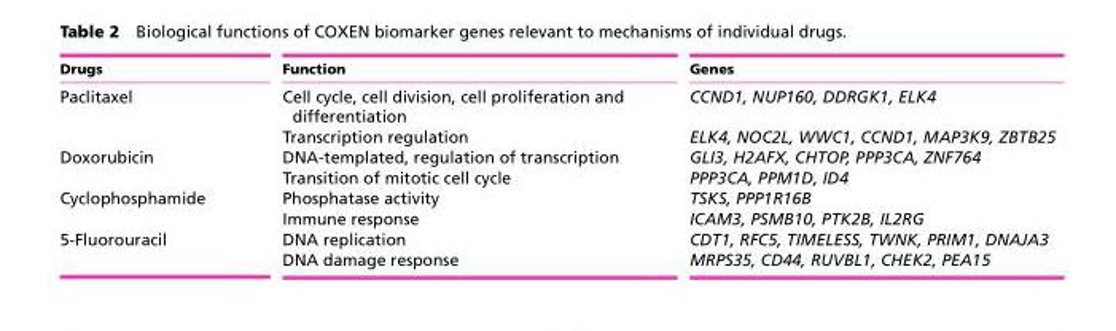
<table><thead><tr><td>Drugs</td><td>Function</td><td>Genes</td></tr></thead><tbody><tr><td rowspan="2">Paclitaxel</td><td>Cell cycle, cell division, cell proliferation and differentiation</td><td>CCND1, NUP160, DDRGK1, ELK4</td></tr><tr><td>Transcription regulation</td><td>ELK4, NOC2L, WWC1, CCND1, MAP3K9, ZBTB25</td></tr><tr><td rowspan="2">Doxorubicin</td><td>DNA-templated, regulation of transcription</td><td>GLI3, H2AFX, CHTOP, PPP3CA, ZNF764</td></tr><tr><td>Transition of mitotic cell cycle</td><td>PPP3CA, PPM1D, ID4</td></tr><tr><td rowspan="2">Cyclophosphamide</td><td>Phosphatase activity</td><td>TSKS, PPP1R16B</td></tr><tr><td>Immune response</td><td>ICAM3, PSMB10, PTK2B, IL2RG</td></tr><tr><td rowspan="2">5-Fluorouracil</td><td>DNA replication</td><td>CDT1, RFC5, TIMELESS, TWNK, PRIM1, DNAJA3</td></tr><tr><td>DNA damage response</td><td>MRPS35, CD44, RUVBL1, CHEK2, PEA15</td></tr></tbody></table>